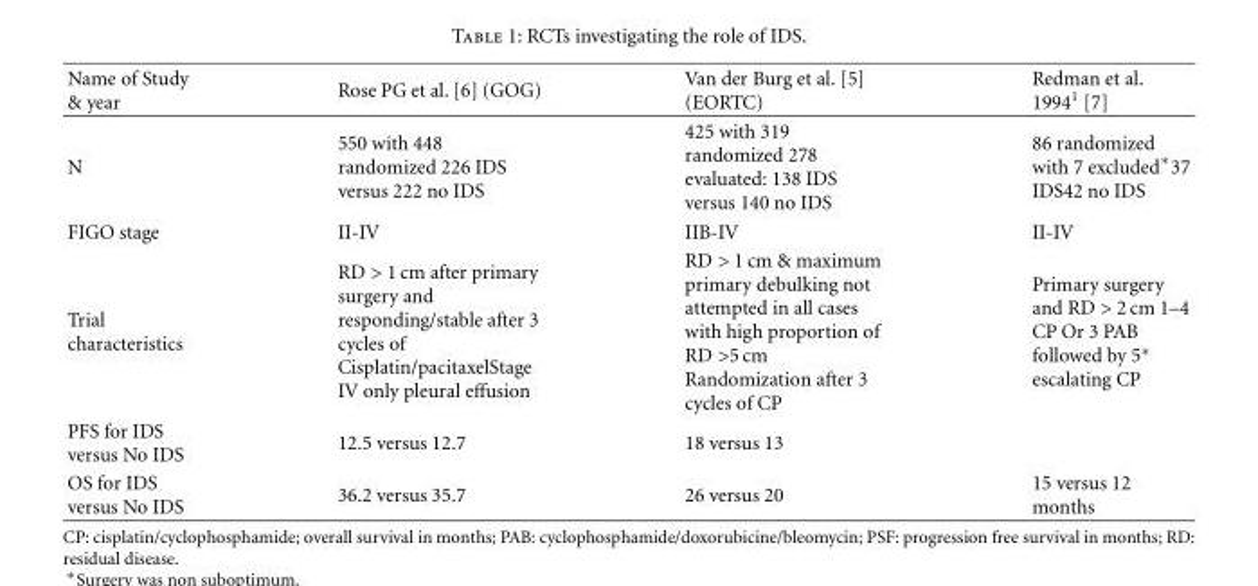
<table><thead><tr><td>Name of Study &amp; year</td><td>Rose PG et al. [6] (GOG)</td><td>Van der Burg et al. [5] (EORTC)</td><td>Redman et al. 1994<sup>1</sup> [7]</td></tr></thead><tbody><tr><td>N</td><td>550 with 448 randomized 226 IDS versus 222 no IDS</td><td>425 with 319 randomized 278 evaluated: 138 IDS versus 140 no IDS</td><td>86 randomized with 7 excluded∗37 IDS42 no IDS</td></tr><tr><td>FIGO stage</td><td>II-IV</td><td>IIB-IV</td><td>II-IV</td></tr><tr><td>Trial characteristics</td><td>RD &gt; 1 cm after primary surgery and responding/stable after 3 cycles of Cisplatin/pacitaxelStage IV only pleural effusion</td><td>RD &gt; 1 cm &amp; maximum primary debulking not attempted in all cases with high proportion of RD &gt;5 cm Randomization after 3 cycles of CP</td><td>Primary surgery and RD &gt; 2 cm 1–4 CP Or 3 PAB followed by 5∗ escalating CP</td></tr><tr><td>PFS for IDS versus No IDS</td><td>12.5 versus 12.7</td><td>18 versus 13</td><td></td></tr><tr><td>OS for IDS versus No IDS</td><td>36.2 versus 35.7</td><td>26 versus 20</td><td>15 versus 12 months</td></tr></tbody></table>